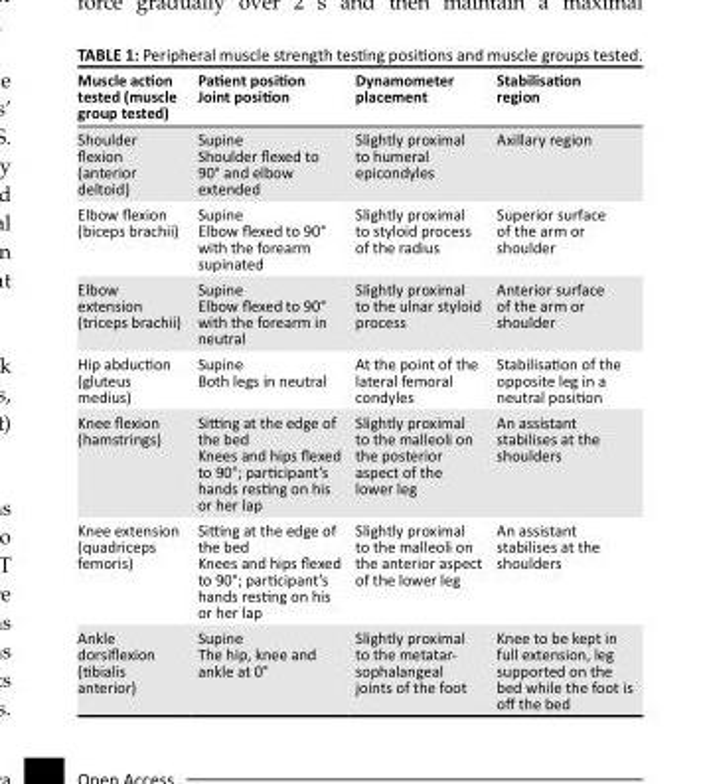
<table><thead><tr><td>Muscle action tested (muscle group tested)</td><td>Patient position Joint position</td><td>Dynamometer placement</td><td>Stabilisation region</td></tr></thead><tbody><tr><td>Shoulder flexion (anterior deltoid)</td><td>Supine Shoulder flexed to 90° and elbow extended</td><td>Slightly proximal to humeral epicondyles</td><td>Axillary region</td></tr><tr><td>Elbow flexion (biceps brachii)</td><td>Supine Elbow flexed to 90° with the forearm supinated</td><td>Slightly proximal to styloid process of the radius</td><td>Superior surface of the arm or shoulder</td></tr><tr><td>Elbow extension (triceps brachii)</td><td>Supine Elbow flexed to 90° with the forearm in neutral</td><td>Slightly proximal to the ulnar styloid process</td><td>Anterior surface of the arm or shoulder</td></tr><tr><td>Hip abduction (gluteus medius)</td><td>Supine Both legs in neutral</td><td>At the point of the lateral femoral condyles</td><td>Stabilisation of the opposite leg in a neutral position</td></tr><tr><td>Knee flexion (hamstrings)</td><td>Sitting at the edge of the bed Knees and hips flexed to 90°; participant’s hands resting on his or her lap</td><td>Slightly proximal to the malleoli on the posterior aspect of the lower leg</td><td>An assistant stabilises at the shoulders</td></tr><tr><td>Knee extension (quadriceps femoris)</td><td>Sitting at the edge of the bed Knees and hips flexed to 90°; participant’s hands resting on his or her lap</td><td>Slightly proximal to the malleoli on the anterior aspect of the lower leg</td><td>An assistant stabilises at the shoulders</td></tr><tr><td>Ankle dorsiflexion (tibialis anterior)</td><td>Supine The hip, knee and ankle at 0°</td><td>Slightly proximal to the metatar- sophalangeal joints of the foot</td><td>Knee to be kept in full extension, leg supported on the bed while the foot is off the bed</td></tr></tbody></table>